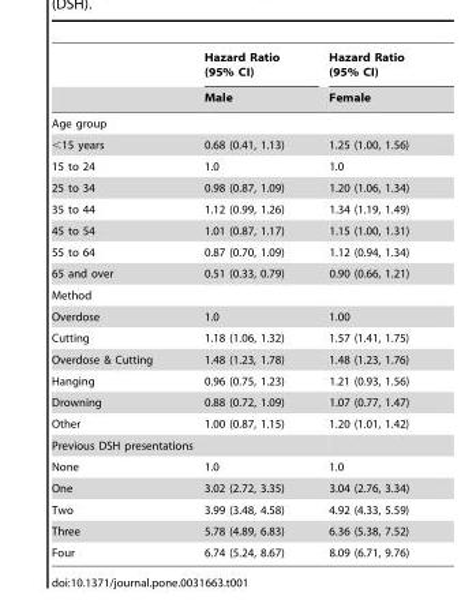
<table><thead><tr><td rowspan="2"></td><td rowspan="2">Hazard Ratio (95% CI) Male</td><td rowspan="2">Hazard Ratio (95% CI) Female</td></tr><tr></tr></thead><tbody><tr><td colspan="3">Age group</td></tr><tr><td>&lt;15 years</td><td>0.68 (0.41, 1.13)</td><td>1.25 (1.00, 1.56)</td></tr><tr><td>15 to 24</td><td>1.0</td><td>1.0</td></tr><tr><td>25 to 34</td><td>0.98 (0.87, 1.09)</td><td>1.20 (1.06, 1.34)</td></tr><tr><td>35 to 44</td><td>1.12 (0.99, 1.26)</td><td>1.34 (1.19, 1.49)</td></tr><tr><td>45 to 54</td><td>1.01 (0.87, 1.17)</td><td>1.15 (1.00, 1.31)</td></tr><tr><td>55 to 64</td><td>0.87 (0.70, 1.09)</td><td>1.12 (0.94, 1.34)</td></tr><tr><td>65 and over</td><td>0.51 (0.33, 0.79)</td><td>0.90 (0.66, 1.21)</td></tr><tr><td colspan="3">Method</td></tr><tr><td>Overdose</td><td>1.0</td><td>1.00</td></tr><tr><td>Cutting</td><td>1.18 (1.06, 1.32)</td><td>1.57 (1.41, 1.75)</td></tr><tr><td>Overdose &amp; Cutting</td><td>1.48 (1.23, 1.78)</td><td>1.48 (1.23, 1.76)</td></tr><tr><td>Hanging</td><td>0.96 (0.75, 1.23)</td><td>1.21 (0.93, 1.56)</td></tr><tr><td>Drowning</td><td>0.88 (0.72, 1.09)</td><td>1.07 (0.77, 1.47)</td></tr><tr><td>Other</td><td>1.00 (0.87, 1.15)</td><td>1.20 (1.01, 1.42)</td></tr><tr><td colspan="3">Previous DSH presentations</td></tr><tr><td>None</td><td>1.0</td><td>1.0</td></tr><tr><td>One</td><td>3.02 (2.72, 3.35)</td><td>3.04 (2.76, 3.34)</td></tr><tr><td>Two</td><td>3.99 (3.48, 4.58)</td><td>4.92 (4.33, 5.59)</td></tr><tr><td>Three</td><td>5.78 (4.89, 6.83)</td><td>6.36 (5.38, 7.52)</td></tr><tr><td>Four</td><td>6.74 (5.24, 8.67)</td><td>8.09 (6.71, 9.76)</td></tr></tbody></table>